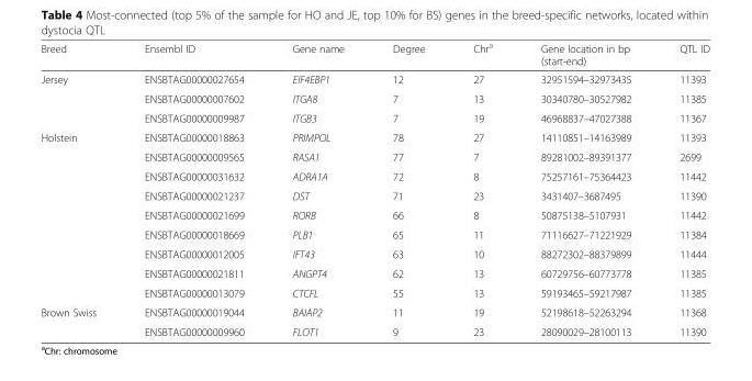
<table><thead><tr><td>Breed</td><td>Ensembl ID</td><td>Gene name</td><td>Degree</td><td>Chr<sup>a</sup></td><td>Gene location in bp (start-end)</td><td>QTL ID</td></tr></thead><tbody><tr><td rowspan="3">Jersey</td><td>ENSBTAG00000027654</td><td>EIF4EBP1</td><td>12</td><td>27</td><td>32951594–32973435</td><td>11393</td></tr><tr><td>ENSBTAG00000007602</td><td>ITGA8</td><td>7</td><td>13</td><td>30340780–30527982</td><td>11385</td></tr><tr><td>ENSBTAG00000009987</td><td>ITGB3</td><td>7</td><td>19</td><td>46968837–47027388</td><td>11367</td></tr><tr><td rowspan="9">Holstein</td><td>ENSBTAG00000018863</td><td>PRIMPOL</td><td>78</td><td>27</td><td>14110851–14163989</td><td>11393</td></tr><tr><td>ENSBTAG00000009565</td><td>RASA1</td><td>77</td><td>7</td><td>89281002–89391377</td><td>2699</td></tr><tr><td>ENSBTAG00000031632</td><td>ADRA1A</td><td>72</td><td>8</td><td>75257161–75364423</td><td>11442</td></tr><tr><td>ENSBTAG00000021237</td><td>DST</td><td>71</td><td>23</td><td>3431407–3687495</td><td>11390</td></tr><tr><td>ENSBTAG00000021699</td><td>RORB</td><td>66</td><td>8</td><td>50875138–5107931</td><td>11442</td></tr><tr><td>ENSBTAG00000018669</td><td>PLB1</td><td>65</td><td>11</td><td>71116627–71221929</td><td>11384</td></tr><tr><td>ENSBTAG00000012005</td><td>IFT43</td><td>63</td><td>10</td><td>88272302–88379899</td><td>11444</td></tr><tr><td>ENSBTAG00000021811</td><td>ANGPT4</td><td>62</td><td>13</td><td>60729756–60773778</td><td>11385</td></tr><tr><td>ENSBTAG00000013079</td><td>CTCFL</td><td>55</td><td>13</td><td>59193465–59217987</td><td>11385</td></tr><tr><td rowspan="2">Brown Swiss</td><td>ENSBTAG00000019044</td><td>BAIAP2</td><td>11</td><td>19</td><td>52198618–52263294</td><td>11368</td></tr><tr><td>ENSBTAG00000009960</td><td>FLOT1</td><td>9</td><td>23</td><td>28090029–28100113</td><td>11390</td></tr></tbody></table>